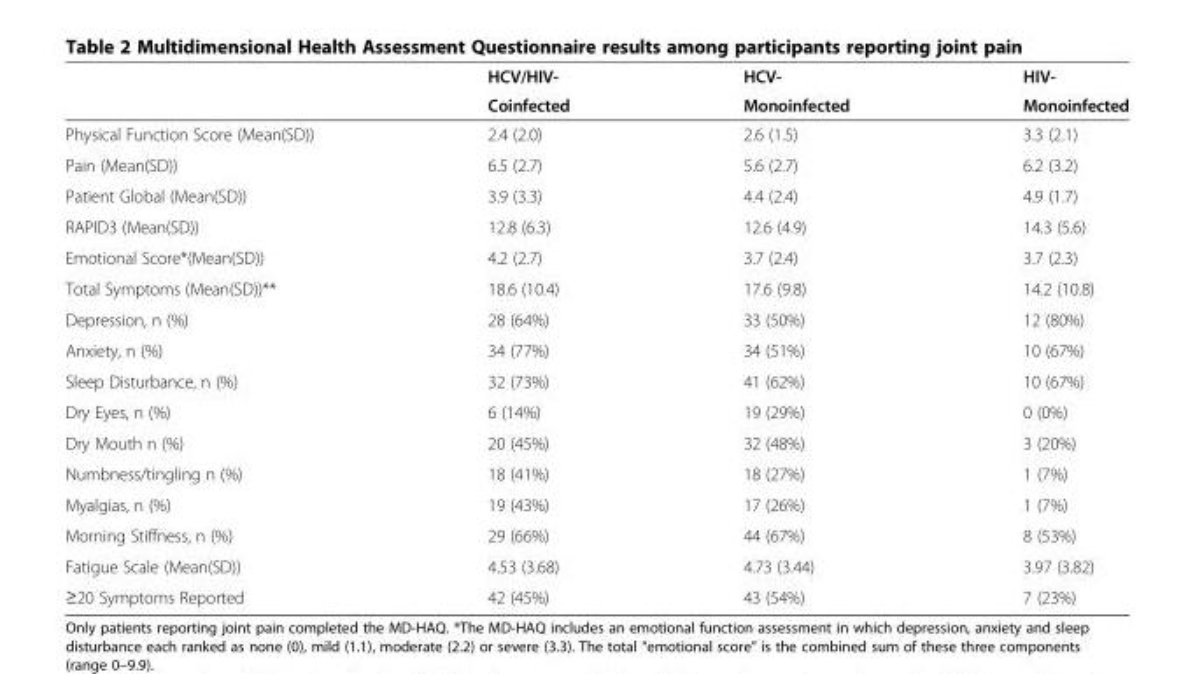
<table><thead><tr><td rowspan="2"></td><td rowspan="2">HCV/HIV- Coinfected</td><td rowspan="2">HCV- Monoinfected</td><td rowspan="2">HIV- Monoinfected</td></tr><tr></tr></thead><tbody><tr><td>Physical Function Score (Mean(SD))</td><td>2.4 (2.0)</td><td>2.6 (1.5)</td><td>3.3 (2.1)</td></tr><tr><td>Pain (Mean(SD))</td><td>6.5 (2.7)</td><td>5.6 (2.7)</td><td>6.2 (3.2)</td></tr><tr><td>Patient Global (Mean(SD))</td><td>3.9 (3.3)</td><td>4.4 (2.4)</td><td>4.9 (1.7)</td></tr><tr><td>RAPID3 (Mean(SD))</td><td>12.8 (6.3)</td><td>12.6 (4.9)</td><td>14.3 (5.6)</td></tr><tr><td>Emotional Score*(Mean(SD))</td><td>4.2 (2.7)</td><td>3.7 (2.4)</td><td>3.7 (2.3)</td></tr><tr><td>Total Symptoms (Mean(SD))**</td><td>18.6 (10.4)</td><td>17.6 (9.8)</td><td>14.2 (10.8)</td></tr><tr><td>Depression, n (%)</td><td>28 (64%)</td><td>33 (50%)</td><td>12 (80%)</td></tr><tr><td>Anxiety, n (%)</td><td>34 (77%)</td><td>34 (51%)</td><td>10 (67%)</td></tr><tr><td>Sleep Disturbance, n (%)</td><td>32 (73%)</td><td>41 (62%)</td><td>10 (67%)</td></tr><tr><td>Dry Eyes, n (%)</td><td>6 (14%)</td><td>19 (29%)</td><td>0 (0%)</td></tr><tr><td>Dry Mouth n (%)</td><td>20 (45%)</td><td>32 (48%)</td><td>3 (20%)</td></tr><tr><td>Numbness/tingling n (%)</td><td>18 (41%)</td><td>18 (27%)</td><td>1 (7%)</td></tr><tr><td>Myalgias, n (%)</td><td>19 (43%)</td><td>17 (26%)</td><td>1 (7%)</td></tr><tr><td>Morning Stiffness, n (%)</td><td>29 (66%)</td><td>44 (67%)</td><td>8 (53%)</td></tr><tr><td>Fatigue Scale (Mean(SD))</td><td>4.53 (3.68)</td><td>4.73 (3.44)</td><td>3.97 (3.82)</td></tr><tr><td>≥20 Symptoms Reported</td><td>42 (45%)</td><td>43 (54%)</td><td>7 (23%)</td></tr></tbody></table>